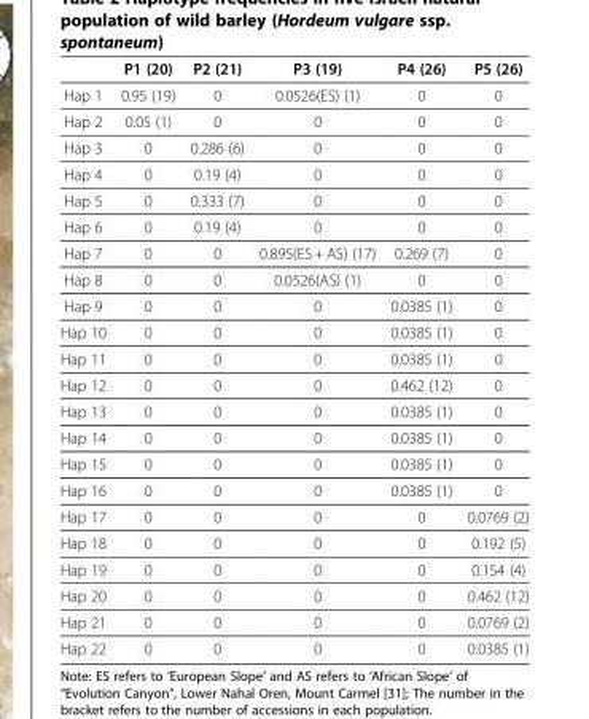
<table><thead><tr><td></td><td>P1 (20)</td><td>P2 (21)</td><td>P3 (19)</td><td>P4 (26)</td><td>P5 (26)</td></tr></thead><tbody><tr><td>Hap 1</td><td>0.95 (19)</td><td>0</td><td>0.0526(ES) (1)</td><td>0</td><td>0</td></tr><tr><td>Hap 2</td><td>0.05 (1)</td><td>0</td><td>0</td><td>0</td><td>0</td></tr><tr><td>Hap 3</td><td>0</td><td>0.286 (6)</td><td>0</td><td>0</td><td>0</td></tr><tr><td>Hap 4</td><td>0</td><td>0.19 (4)</td><td>0</td><td>0</td><td>0</td></tr><tr><td>Hap 5</td><td>0</td><td>0.333 (7)</td><td>0</td><td>0</td><td>0</td></tr><tr><td>Hap 6</td><td>0</td><td>0.19 (4)</td><td>0</td><td>0</td><td>0</td></tr><tr><td>Hap 7</td><td>0</td><td>0</td><td>0.895(ES + AS) (17)</td><td>0.269 (7)</td><td>0</td></tr><tr><td>Hap 8</td><td>0</td><td>0</td><td>0.0526(AS) (1)</td><td>0</td><td>0</td></tr><tr><td>Hap 9</td><td>0</td><td>0</td><td>0</td><td>0.0385 (1)</td><td>0</td></tr><tr><td>Hap 10</td><td>0</td><td>0</td><td>0</td><td>0.0385 (1)</td><td>0</td></tr><tr><td>Hap 11</td><td>0</td><td>0</td><td>0</td><td>0.0385 (1)</td><td>0</td></tr><tr><td>Hap 12</td><td>0</td><td>0</td><td>0</td><td>0.462 (12)</td><td>0</td></tr><tr><td>Hap 13</td><td>0</td><td>0</td><td>0</td><td>0.0385 (1)</td><td>0</td></tr><tr><td>Hap 14</td><td>0</td><td>0</td><td>0</td><td>0.0385 (1)</td><td>0</td></tr><tr><td>Hap 15</td><td>0</td><td>0</td><td>0</td><td>0.0385 (1)</td><td>0</td></tr><tr><td>Hap 16</td><td>0</td><td>0</td><td>0</td><td>0.0385 (1)</td><td>0</td></tr><tr><td>Hap 17</td><td>0</td><td>0</td><td>0</td><td>0</td><td>0.0769 (2)</td></tr><tr><td>Hap 18</td><td>0</td><td>0</td><td>0</td><td>0</td><td>0.192 (5)</td></tr><tr><td>Hap 19</td><td>0</td><td>0</td><td>0</td><td>0</td><td>0.154 (4)</td></tr><tr><td>Hap 20</td><td>0</td><td>0</td><td>0</td><td>0</td><td>0.462 (12)</td></tr><tr><td>Hap 21</td><td>0</td><td>0</td><td>0</td><td>0</td><td>0.0769 (2)</td></tr><tr><td>Hap 22</td><td>0</td><td>0</td><td>0</td><td>0</td><td>0.0385 (1)</td></tr></tbody></table>